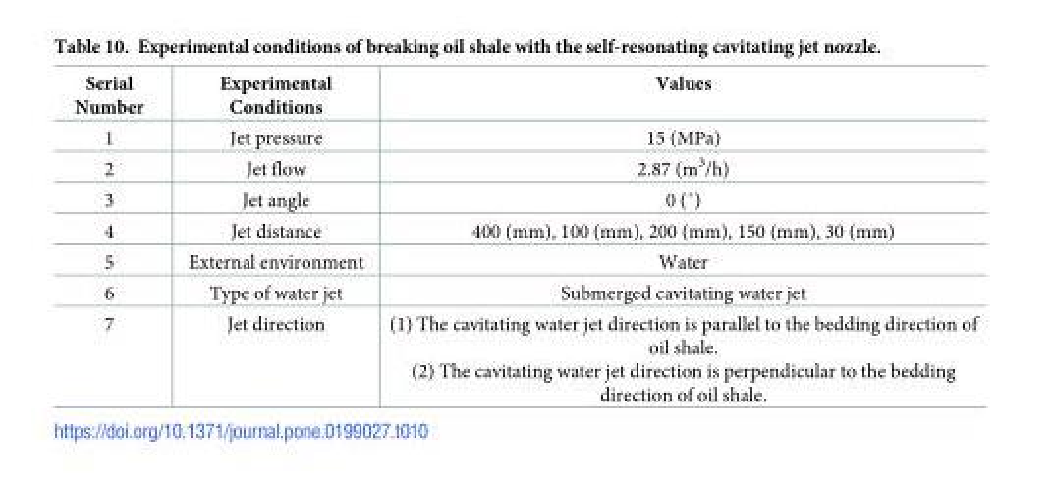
<table><thead><tr><td>Serial Number</td><td>Experimental Conditions</td><td>Values</td></tr></thead><tbody><tr><td>1</td><td>Jet pressure</td><td>15 (MPa)</td></tr><tr><td>2</td><td>Jet flow</td><td>2.87 (m<sup>3</sup>/h)</td></tr><tr><td>3</td><td>Jet angle</td><td>0 (˚)</td></tr><tr><td>4</td><td>Jet distance</td><td>400 (mm), 100 (mm), 200 (mm), 150 (mm), 30 (mm)</td></tr><tr><td>5</td><td>External environment</td><td>Water</td></tr><tr><td>6</td><td>Type of water jet</td><td>Submerged cavitating water jet</td></tr><tr><td>7</td><td>Jet direction</td><td>(1) The cavitating water jet direction is parallel to the bedding direction of oil shale. (2) The cavitating water jet direction is perpendicular to the bedding direction of oil shale.</td></tr></tbody></table>